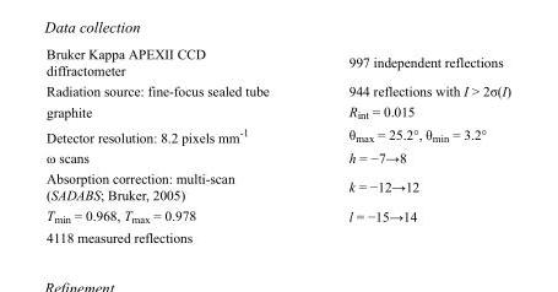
<table><tbody><tr><td>Bruker Kappa APEXII CCD diffractometer</td><td>997 independent reflections</td></tr><tr><td>Radiation source: fine-focus sealed tube</td><td>944 reflections with I &gt; 2σ(I)</td></tr><tr><td>graphite</td><td>R<sub>int</sub> = 0.015</td></tr><tr><td>Detector resolution: 8.2 pixels mm<sup>-1</sup></td><td>θ<sub>max</sub> = 25.2°, θ<sub>min</sub> = 3.2°</td></tr><tr><td>ω scans</td><td>h = −7→8</td></tr><tr><td>Absorption correction: multi-scan (SADABS; Bruker, 2005)</td><td>k = −12→12</td></tr><tr><td>T<sub>min</sub> = 0.968, T<sub>max</sub> = 0.978</td><td>l = −15→14</td></tr><tr><td>4118 measured reflections</td><td></td></tr></tbody></table>